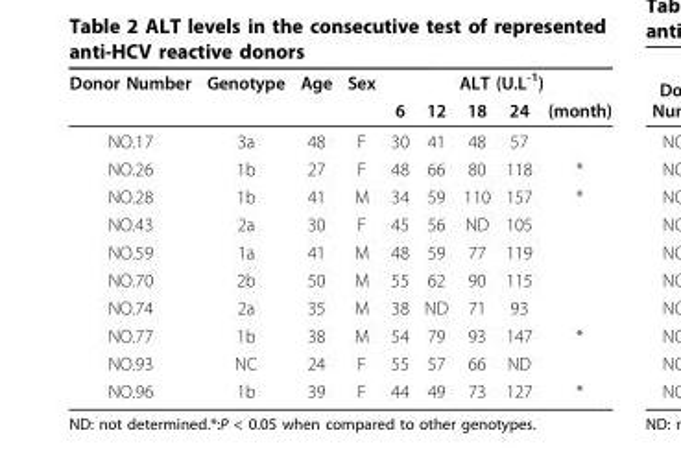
<table><thead><tr><td rowspan="2">Donor Number</td><td rowspan="2">Genotype</td><td rowspan="2">Age</td><td rowspan="2">Sex</td><td colspan="5">ALT (U.L<sup>-1</sup>)</td></tr><tr><td>6</td><td>12</td><td>18</td><td>24</td><td>(month)</td></tr></thead><tbody><tr><td>NO.17</td><td>3a</td><td>48</td><td>F</td><td>30</td><td>41</td><td>48</td><td>57</td><td></td></tr><tr><td>NO.26</td><td>1b</td><td>27</td><td>F</td><td>48</td><td>66</td><td>80</td><td>118</td><td>*</td></tr><tr><td>NO.28</td><td>1b</td><td>41</td><td>M</td><td>34</td><td>59</td><td>110</td><td>157</td><td>*</td></tr><tr><td>NO.43</td><td>2a</td><td>30</td><td>F</td><td>45</td><td>56</td><td>ND</td><td>105</td><td></td></tr><tr><td>NO.59</td><td>1a</td><td>41</td><td>M</td><td>48</td><td>59</td><td>77</td><td>119</td><td></td></tr><tr><td>NO.70</td><td>2b</td><td>50</td><td>M</td><td>55</td><td>62</td><td>90</td><td>115</td><td></td></tr><tr><td>NO.74</td><td>2a</td><td>35</td><td>M</td><td>38</td><td>ND</td><td>71</td><td>93</td><td></td></tr><tr><td>NO.77</td><td>1b</td><td>38</td><td>M</td><td>54</td><td>79</td><td>93</td><td>147</td><td>*</td></tr><tr><td>NO.93</td><td>NC</td><td>24</td><td>F</td><td>55</td><td>57</td><td>66</td><td>ND</td><td></td></tr><tr><td>NO.96</td><td>1b</td><td>39</td><td>F</td><td>44</td><td>49</td><td>73</td><td>127</td><td>*</td></tr></tbody></table>